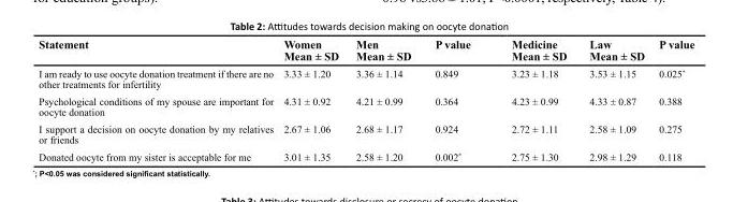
<table><thead><tr><td>Statement</td><td>Women Mean ± SD</td><td>Men Mean ± SD</td><td>P value</td><td>Medicine Mean ± SD</td><td>Law Mean ± SD</td><td>P value</td></tr></thead><tbody><tr><td>I am ready to use oocyte donation treatment if there are no other treatments for infertility</td><td>3.33 ± 1.20</td><td>3.36 ± 1.14</td><td>0.849</td><td>3.23 ± 1.18</td><td>3.53 ± 1.15</td><td>0.025*</td></tr><tr><td>Psychological conditions of my spouse are important for oocyte donation</td><td>4.31 ± 0.92</td><td>4.21 ± 0.99</td><td>0.364</td><td>4.23 ± 0.99</td><td>4.33 ± 0.87</td><td>0.388</td></tr><tr><td>I support a decision on oocyte donation by my relatives or friends</td><td>2.67 ± 1.06</td><td>2.68 ± 1.17</td><td>0.924</td><td>2.72 ± 1.11</td><td>2.58 ± 1.09</td><td>0.275</td></tr><tr><td>Donated oocyte from my sister is acceptable for me</td><td>3.01 ± 1.35</td><td>2.58 ± 1.20</td><td>0.002*</td><td>2.75 ± 1.30</td><td>2.98 ± 1.29</td><td>0.118</td></tr></tbody></table>